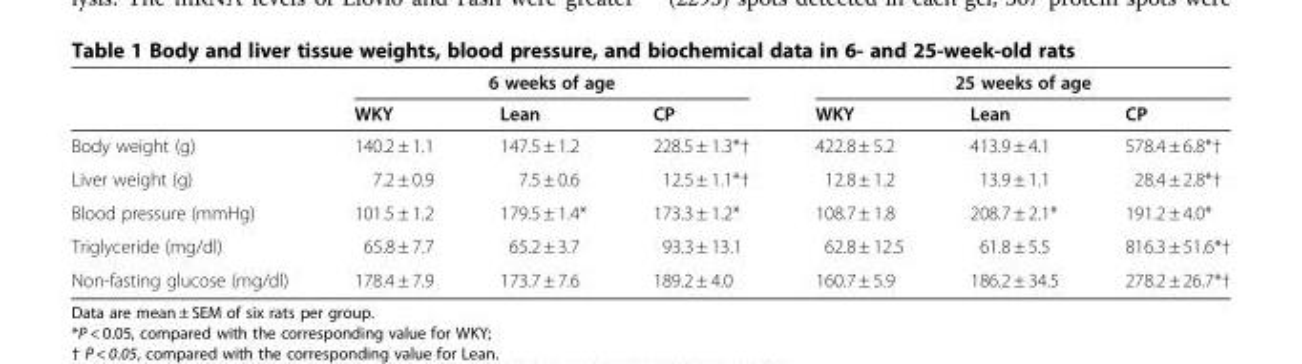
<table><thead><tr><td rowspan="2"></td><td colspan="3">6 weeks of age</td><td colspan="3">25 weeks of age</td></tr><tr><td>WKY</td><td>Lean</td><td>CP</td><td>WKY</td><td>Lean</td><td>CP</td></tr></thead><tbody><tr><td>Body weight (g)</td><td>140.2 ± 1.1</td><td>147.5 ± 1.2</td><td>228.5 ± 1.3*†</td><td>422.8 ± 5.2</td><td>413.9 ± 4.1</td><td>578.4 ± 6.8*†</td></tr><tr><td>Liver weight (g)</td><td>7.2 ± 0.9</td><td>7.5 ± 0.6</td><td>12.5 ± 1.1*†</td><td>12.8 ± 1.2</td><td>13.9 ± 1.1</td><td>28.4 ± 2.8*†</td></tr><tr><td>Blood pressure (mmHg)</td><td>101.5 ± 1.2</td><td>179.5 ± 1.4*</td><td>173.3 ± 1.2*</td><td>108.7 ± 1.8</td><td>208.7 ± 2.1*</td><td>191.2 ± 4.0*</td></tr><tr><td>Triglyceride (mg/dl)</td><td>65.8 ± 7.7</td><td>65.2 ± 3.7</td><td>93.3 ± 13.1</td><td>62.8 ± 12.5</td><td>61.8 ± 5.5</td><td>816.3 ± 51.6*†</td></tr><tr><td>Non-fasting glucose (mg/dl)</td><td>178.4 ± 7.9</td><td>173.7 ± 7.6</td><td>189.2 ± 4.0</td><td>160.7 ± 5.9</td><td>186.2 ± 34.5</td><td>278.2 ± 26.7*†</td></tr></tbody></table>